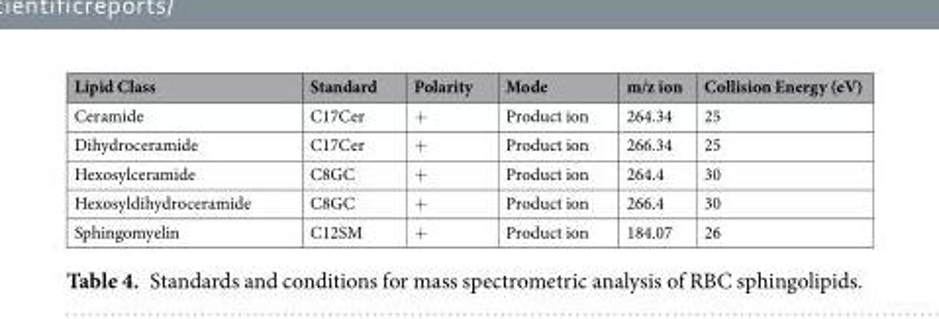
<table><thead><tr><td>Lipid Class</td><td>Standard</td><td>Polarity</td><td>Mode</td><td>m/z ion</td><td>Collision Energy (eV)</td></tr></thead><tbody><tr><td>Ceramide</td><td>C17Cer</td><td>+</td><td>Product ion</td><td>264.34</td><td>25</td></tr><tr><td>Dihydroceramide</td><td>C17Cer</td><td>+</td><td>Product ion</td><td>266.34</td><td>25</td></tr><tr><td>Hexosylceramide</td><td>C8GC</td><td>+</td><td>Product ion</td><td>264.4</td><td>30</td></tr><tr><td>Hexosyldihydroceramide</td><td>C8GC</td><td>+</td><td>Product ion</td><td>266.4</td><td>30</td></tr><tr><td>Sphingomyelin</td><td>C12SM</td><td>+</td><td>Product ion</td><td>184.07</td><td>26</td></tr></tbody></table>